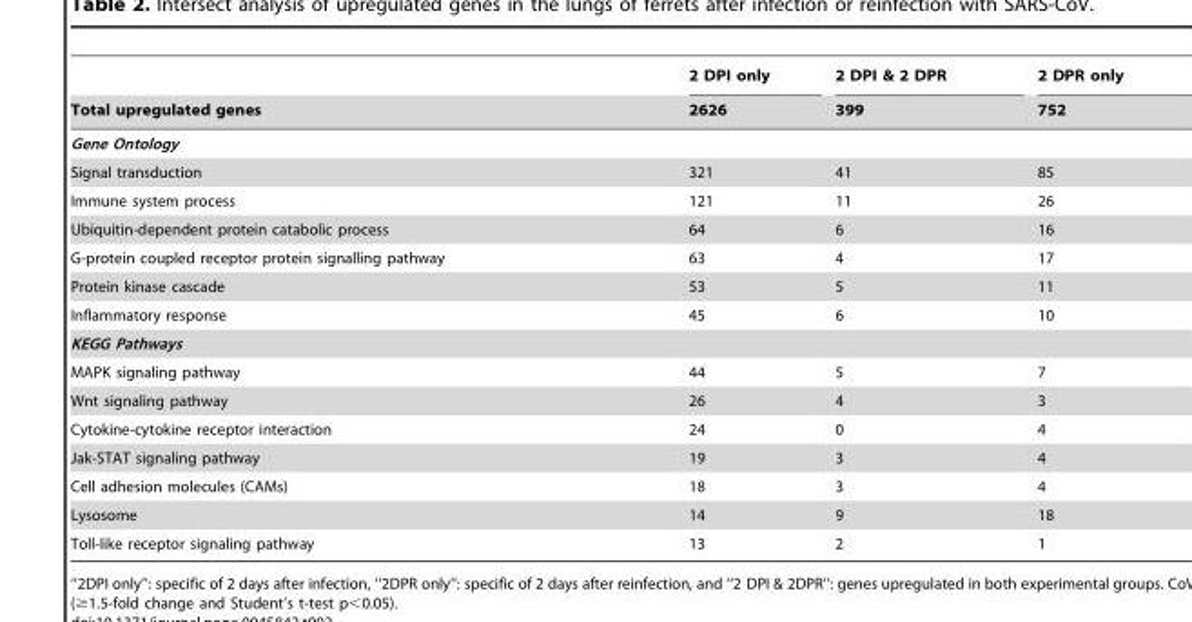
<table><thead><tr><td rowspan="2">Total upregulated genes</td><td rowspan="2">2 DPI only 2626</td><td rowspan="2">2 DPI &amp; 2 DPR 399</td><td rowspan="2">2 DPR only 752</td></tr><tr></tr></thead><tbody><tr><td colspan="4">Gene Ontology</td></tr><tr><td>Signal transduction</td><td>321</td><td>41</td><td>85</td></tr><tr><td>Immune system process</td><td>121</td><td>11</td><td>26</td></tr><tr><td>Ubiquitin-dependent protein catabolic process</td><td>64</td><td>6</td><td>16</td></tr><tr><td>G-protein coupled receptor protein signalling pathway</td><td>63</td><td>4</td><td>17</td></tr><tr><td>Protein kinase cascade</td><td>53</td><td>5</td><td>11</td></tr><tr><td>Inflammatory response</td><td>45</td><td>6</td><td>10</td></tr><tr><td colspan="4">KEGG Pathways</td></tr><tr><td>MAPK signaling pathway</td><td>44</td><td>5</td><td>7</td></tr><tr><td>Wnt signaling pathway</td><td>26</td><td>4</td><td>3</td></tr><tr><td>Cytokine-cytokine receptor interaction</td><td>24</td><td>0</td><td>4</td></tr><tr><td>Jak-STAT signaling pathway</td><td>19</td><td>3</td><td>4</td></tr><tr><td>Cell adhesion molecules (CAMs)</td><td>18</td><td>3</td><td>4</td></tr><tr><td>Lysosome</td><td>14</td><td>9</td><td>18</td></tr><tr><td>Toll-like receptor signaling pathway</td><td>13</td><td>2</td><td>1</td></tr></tbody></table>